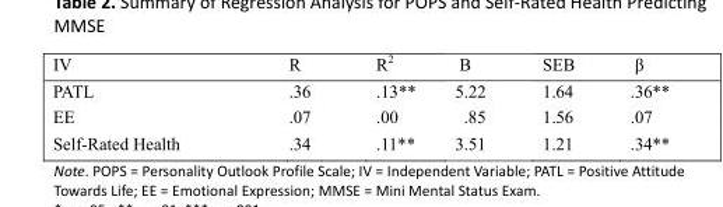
<table><thead><tr><td>IV</td><td>R</td><td>R<sup>2</sup></td><td>B</td><td>SEB</td><td>β</td></tr></thead><tbody><tr><td>PATL</td><td>.36</td><td>.13**</td><td>5.22</td><td>1.64</td><td>.36**</td></tr><tr><td>EE</td><td>.07</td><td>.00</td><td>.85</td><td>1.56</td><td>.07</td></tr><tr><td>Self-Rated Health</td><td>.34</td><td>.11**</td><td>3.51</td><td>1.21</td><td>.34**</td></tr></tbody></table>